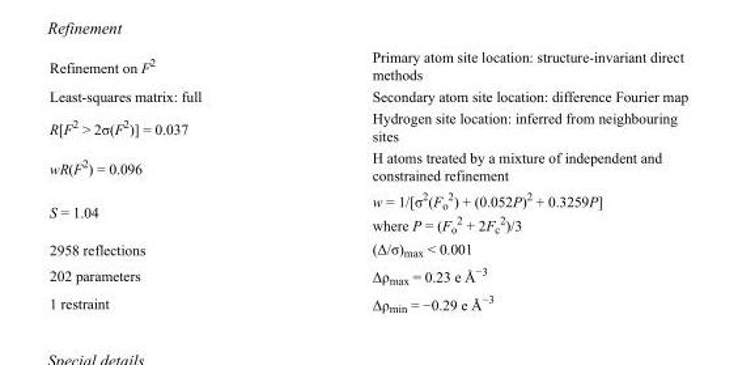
<table><tbody><tr><td>Refinement on F<sup>2</sup></td><td>Primary atom site location: structure-invariant direct methods</td></tr><tr><td>Least-squares matrix: full</td><td>Secondary atom site location: difference Fourier map</td></tr><tr><td>R[F<sup>2</sup> &gt; 2σ(F<sup>2</sup>)] = 0.037</td><td>Hydrogen site location: inferred from neighbouring sites</td></tr><tr><td>wR(F<sup>2</sup>) = 0.096</td><td>H atoms treated by a mixture of independent and constrained refinement</td></tr><tr><td>S = 1.04</td><td>w = 1/[σ<sup>2</sup>(F<sub>o</sub> <sup>2</sup>) + (0.052P)<sup>2</sup> + 0.3259P] where P = (F<sub>o</sub> <sup>2</sup> + 2F<sub>c</sub> <sup>2</sup>)/3</td></tr><tr><td>2958 reflections</td><td>(Δ/σ)<sub>max</sub> &lt; 0.001</td></tr><tr><td>202 parameters</td><td>Δρ<sub>max</sub> = 0.23 e Å<sup>−3</sup></td></tr><tr><td>1 restraint</td><td>Δρ<sub>min</sub> = −0.29 e Å<sup>−3</sup></td></tr></tbody></table>